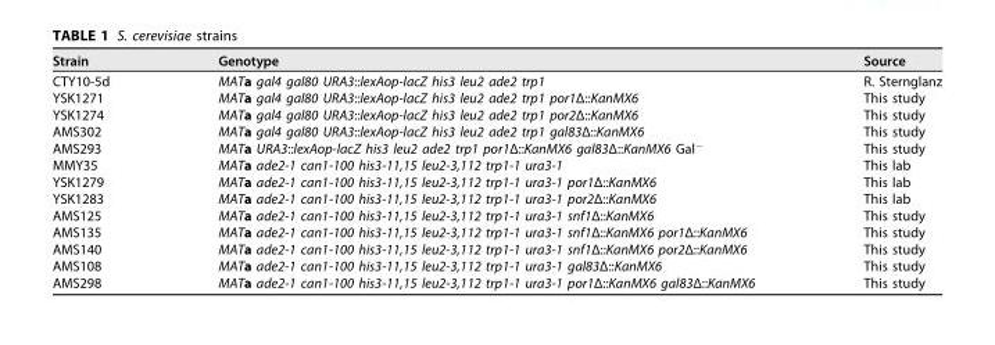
<table><thead><tr><td>Strain</td><td>Genotype</td><td>Source</td></tr></thead><tbody><tr><td>CTY10-5d</td><td>MATa gal4 gal80 URA3::lexAop-lacZ his3 leu2 ade2 trp1</td><td>R. Sternglanz</td></tr><tr><td>YSK1271</td><td>MATa gal4 gal80 URA3::lexAop-lacZ his3 leu2 ade2 trp1 por1Δ::KanMX6</td><td>This study</td></tr><tr><td>YSK1274</td><td>MATa gal4 gal80 URA3::lexAop-lacZ his3 leu2 ade2 trp1 por2Δ::KanMX6</td><td>This study</td></tr><tr><td>AMS302</td><td>MATa gal4 gal80 URA3::lexAop-lacZ his3 leu2 ade2 trp1 gal83Δ::KanMX6</td><td>This study</td></tr><tr><td>AMS293</td><td>MATa URA3::lexAop-lacZ his3 leu2 ade2 trp1 por1Δ::KanMX6 gal83Δ::KanMX6 Gal<sup>−</sup></td><td>This study</td></tr><tr><td>MMY35</td><td>MATa ade2-1 can1-100 his3-11,15 leu2-3,112 trp1-1 ura3-1</td><td>This lab</td></tr><tr><td>YSK1279</td><td>MATa ade2-1 can1-100 his3-11,15 leu2-3,112 trp1-1 ura3-1 por1Δ::KanMX6</td><td>This lab</td></tr><tr><td>YSK1283</td><td>MATa ade2-1 can1-100 his3-11,15 leu2-3,112 trp1-1 ura3-1 por2Δ::KanMX6</td><td>This lab</td></tr><tr><td>AMS125</td><td>MATa ade2-1 can1-100 his3-11,15 leu2-3,112 trp1-1 ura3-1 snf1Δ::KanMX6</td><td>This study</td></tr><tr><td>AMS135</td><td>MATa ade2-1 can1-100 his3-11,15 leu2-3,112 trp1-1 ura3-1 snf1Δ::KanMX6 por1Δ::KanMX6</td><td>This study</td></tr><tr><td>AMS140</td><td>MATa ade2-1 can1-100 his3-11,15 leu2-3,112 trp1-1 ura3-1 snf1Δ::KanMX6 por2Δ::KanMX6</td><td>This study</td></tr><tr><td>AMS108</td><td>MATa ade2-1 can1-100 his3-11,15 leu2-3,112 trp1-1 ura3-1 gal83Δ::KanMX6</td><td>This study</td></tr><tr><td>AMS298</td><td>MATa ade2-1 can1-100 his3-11,15 leu2-3,112 trp1-1 ura3-1 por1Δ::KanMX6 gal83Δ::KanMX6</td><td>This study</td></tr></tbody></table>